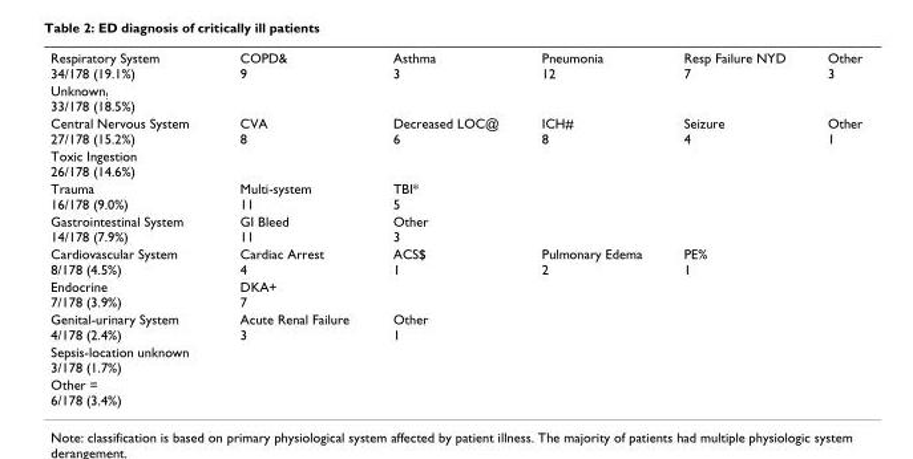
<table><tbody><tr><td>Respiratory System 34/178 (19.1%)</td><td>COPD&amp; 9</td><td>Asthma 3</td><td>Pneumonia 12</td><td>Resp Failure NYD 7</td><td>Other 3</td></tr><tr><td colspan="6">Unknown<sub>!</sub> 33/178 (18.5%)</td></tr><tr><td>Central Nervous System 27/178 (15.2%)</td><td>CVA 8</td><td>Decreased LOC@ 6</td><td>ICH# 8</td><td>Seizure 4</td><td>Other 1</td></tr><tr><td colspan="6">Toxic Ingestion 26/178 (14.6%)</td></tr><tr><td>Trauma 16/178 (9.0%)</td><td>Multi-system 11</td><td>TBI* 5</td><td></td><td></td><td></td></tr><tr><td>Gastrointestinal System 14/178 (7.9%)</td><td>GI Bleed 11</td><td>Other 3</td><td></td><td></td><td></td></tr><tr><td>Cardiovascular System 8/178 (4.5%)</td><td>Cardiac Arrest 4</td><td>ACS$ 1</td><td>Pulmonary Edema 2</td><td>PE% 1</td><td></td></tr><tr><td>Endocrine 7/178 (3.9%)</td><td>DKA+ 7</td><td></td><td></td><td></td><td></td></tr><tr><td>Genital-urinary System 4/178 (2.4%)</td><td>Acute Renal Failure 3</td><td>Other 1</td><td></td><td></td><td></td></tr><tr><td colspan="6">Sepsis-location unknown 3/178 (1.7%)</td></tr><tr><td>Other = 6/178 (3.4%)</td><td></td><td></td><td></td><td></td><td></td></tr></tbody></table>